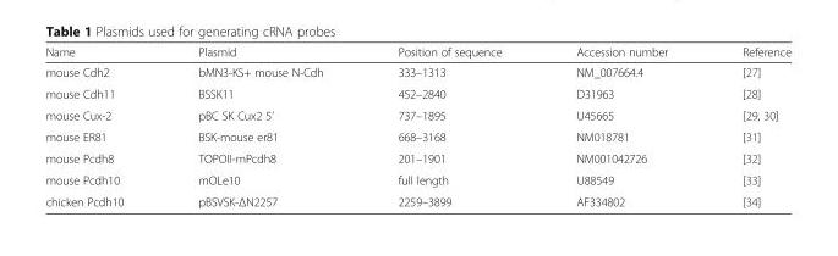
<table><thead><tr><td>Name</td><td>Plasmid</td><td>Position of sequence</td><td>Accession number</td><td>Reference</td></tr></thead><tbody><tr><td>mouse Cdh2</td><td>bMN3-KS+ mouse N-Cdh</td><td>333–1313</td><td>NM_007664.4</td><td>[27]</td></tr><tr><td>mouse Cdh11</td><td>BSSK11</td><td>452–2840</td><td>D31963</td><td>[28]</td></tr><tr><td>mouse Cux-2</td><td>pBC SK Cux2 5’</td><td>737–1895</td><td>U45665</td><td>[29, 30]</td></tr><tr><td>mouse ER81</td><td>BSK-mouse er81</td><td>668–3168</td><td>NM018781</td><td>[31]</td></tr><tr><td>mouse Pcdh8</td><td>TOPOII-mPcdh8</td><td>201–1901</td><td>NM001042726</td><td>[32]</td></tr><tr><td>mouse Pcdh10</td><td>mOLe10</td><td>full length</td><td>U88549</td><td>[33]</td></tr><tr><td>chicken Pcdh10</td><td>pBSVSK-ΔN2257</td><td>2259–3899</td><td>AF334802</td><td>[34]</td></tr></tbody></table>